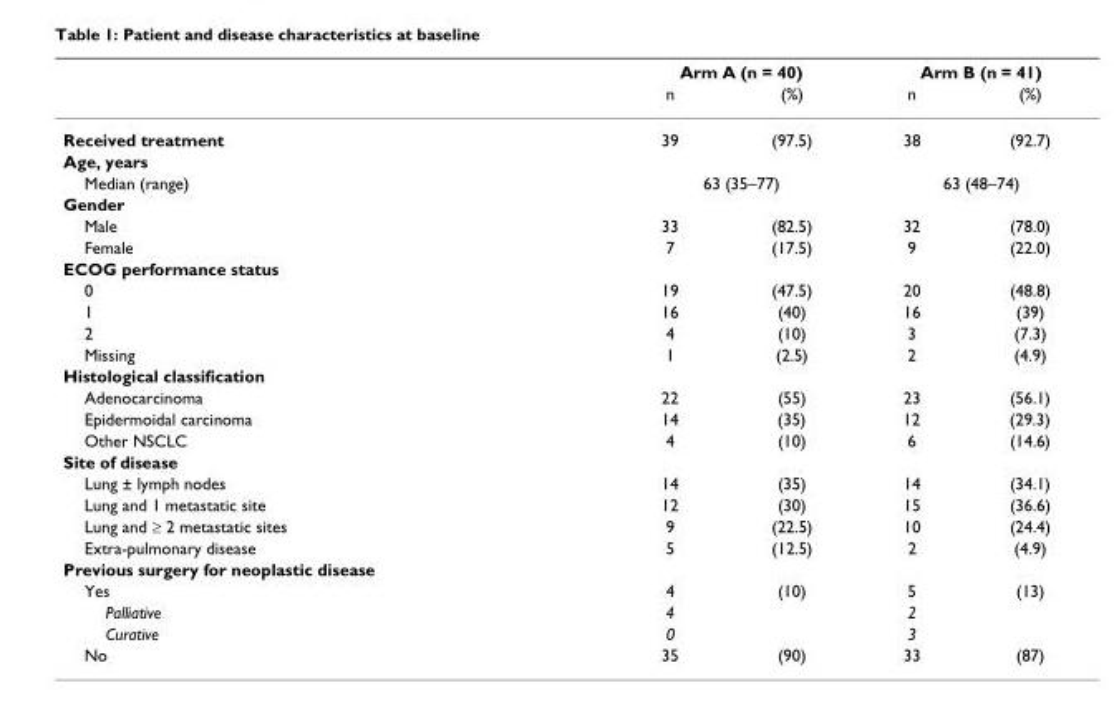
<table><thead><tr><td rowspan="2"></td><td colspan="2">Arm A (n = 40)</td><td colspan="2">Arm B (n = 41)</td></tr><tr><td>n</td><td>(%)</td><td>n</td><td>(%)</td></tr></thead><tbody><tr><td>Received treatment</td><td>39</td><td>(97.5)</td><td>38</td><td>(92.7)</td></tr><tr><td colspan="5">Age, years</td></tr><tr><td>Median (range)</td><td colspan="2">63 (35–77)</td><td colspan="2">63 (48–74)</td></tr><tr><td colspan="5">Gender</td></tr><tr><td>Male</td><td>33</td><td>(82.5)</td><td>32</td><td>(78.0)</td></tr><tr><td>Female</td><td>7</td><td>(17.5)</td><td>9</td><td>(22.0)</td></tr><tr><td colspan="5">ECOG performance status</td></tr><tr><td>0</td><td>19</td><td>(47.5)</td><td>20</td><td>(48.8)</td></tr><tr><td>1</td><td>16</td><td>(40)</td><td>16</td><td>(39)</td></tr><tr><td>2</td><td>4</td><td>(10)</td><td>3</td><td>(7.3)</td></tr><tr><td>Missing</td><td>1</td><td>(2.5)</td><td>2</td><td>(4.9)</td></tr><tr><td colspan="5">Histological classification</td></tr><tr><td>Adenocarcinoma</td><td>22</td><td>(55)</td><td>23</td><td>(56.1)</td></tr><tr><td>Epidermoidal carcinoma</td><td>14</td><td>(35)</td><td>12</td><td>(29.3)</td></tr><tr><td>Other NSCLC</td><td>4</td><td>(10)</td><td>6</td><td>(14.6)</td></tr><tr><td colspan="5">Site of disease</td></tr><tr><td>Lung ± lymph nodes</td><td>14</td><td>(35)</td><td>14</td><td>(34.1)</td></tr><tr><td>Lung and 1 metastatic site</td><td>12</td><td>(30)</td><td>15</td><td>(36.6)</td></tr><tr><td>Lung and ≥ 2 metastatic sites</td><td>9</td><td>(22.5)</td><td>10</td><td>(24.4)</td></tr><tr><td>Extra-pulmonary disease</td><td>5</td><td>(12.5)</td><td>2</td><td>(4.9)</td></tr><tr><td colspan="5">Previous surgery for neoplastic disease</td></tr><tr><td>Yes</td><td>4</td><td>(10)</td><td>5</td><td>(13)</td></tr><tr><td>Palliative</td><td>4</td><td></td><td>2</td><td></td></tr><tr><td>Curative</td><td>0</td><td></td><td>3</td><td></td></tr><tr><td>No</td><td>35</td><td>(90)</td><td>33</td><td>(87)</td></tr></tbody></table>